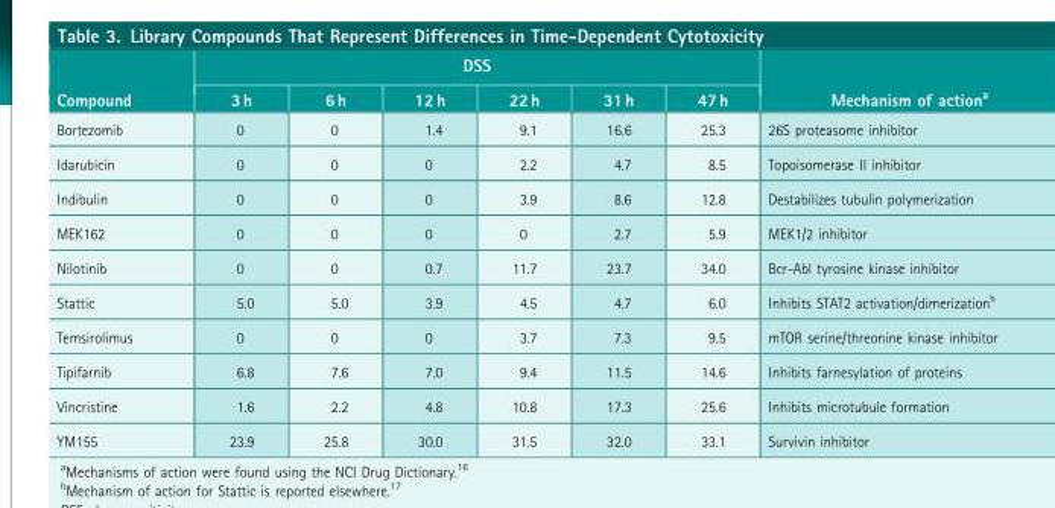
<table><thead><tr><td rowspan="2">Compound</td><td colspan="6">DSS</td><td rowspan="2">Mechanism of action<sup>a</sup></td></tr><tr><td>3 h</td><td>6 h</td><td>12 h</td><td>22 h</td><td>31 h</td><td>47 h</td></tr></thead><tbody><tr><td>Bortezomib</td><td>0</td><td>0</td><td>1.4</td><td>9.1</td><td>16.6</td><td>25.3</td><td>26S proteasome inhibitor</td></tr><tr><td>Idarubicin</td><td>0</td><td>0</td><td>0</td><td>2.2</td><td>4.7</td><td>8.5</td><td>Topoisomerase II inhibitor</td></tr><tr><td>Indibulin</td><td>0</td><td>0</td><td>0</td><td>3.9</td><td>8.6</td><td>12.8</td><td>Destabilizes tubulin polymerization</td></tr><tr><td>MEK162</td><td>0</td><td>0</td><td>0</td><td>0</td><td>2.7</td><td>5.9</td><td>MEK1/2 inhibitor</td></tr><tr><td>Nilotinib</td><td>0</td><td>0</td><td>0.7</td><td>11.7</td><td>23.7</td><td>34.0</td><td>Bcr-Abl tyrosine kinase inhibitor</td></tr><tr><td>Stattic</td><td>5.0</td><td>5.0</td><td>3.9</td><td>4.5</td><td>4.7</td><td>6.0</td><td>Inhibits STAT2 activation/dimerization<sup>b</sup></td></tr><tr><td>Temsirolimus</td><td>0</td><td>0</td><td>0</td><td>3.7</td><td>7.3</td><td>9.5</td><td>mTOR serine/threonine kinase inhibitor</td></tr><tr><td>Tipifarnib</td><td>6.8</td><td>7.6</td><td>7.0</td><td>9.4</td><td>11.5</td><td>14.6</td><td>Inhibits farnesylation of proteins</td></tr><tr><td>Vincristine</td><td>1.6</td><td>2.2</td><td>4.8</td><td>10.8</td><td>17.3</td><td>25.6</td><td>Inhibits microtubule formation</td></tr><tr><td>YM155</td><td>23.9</td><td>25.8</td><td>30.0</td><td>31.5</td><td>32.0</td><td>33.1</td><td>Survivin inhibitor</td></tr></tbody></table>